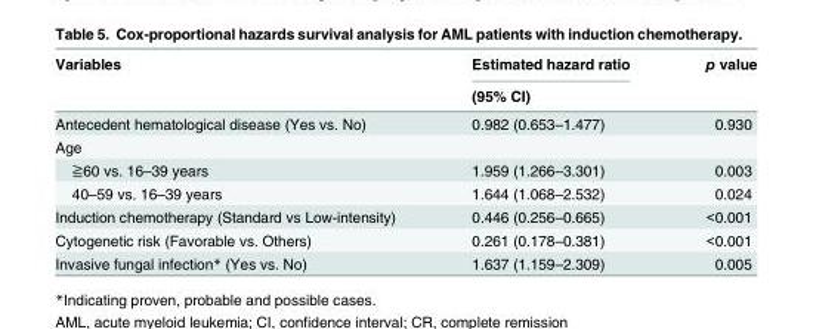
<table><thead><tr><td rowspan="2">Variables</td><td rowspan="2">Estimated hazard ratio (95% CI)</td><td rowspan="2">p value</td></tr><tr></tr></thead><tbody><tr><td>Antecedent hematological disease (Yes vs. No)</td><td>0.982 (0.653–1.477)</td><td>0.930</td></tr><tr><td colspan="3">Age</td></tr><tr><td>≧60 vs. 16–39 years</td><td>1.959 (1.266–3.301)</td><td>0.003</td></tr><tr><td>40–59 vs. 16–39 years</td><td>1.644 (1.068–2.532)</td><td>0.024</td></tr><tr><td>Induction chemotherapy (Standard vs Low-intensity)</td><td>0.446 (0.256–0.665)</td><td>&lt;0.001</td></tr><tr><td>Cytogenetic risk (Favorable vs. Others)</td><td>0.261 (0.178–0.381)</td><td>&lt;0.001</td></tr><tr><td>Invasive fungal infection* (Yes vs. No)</td><td>1.637 (1.159–2.309)</td><td>0.005</td></tr></tbody></table>